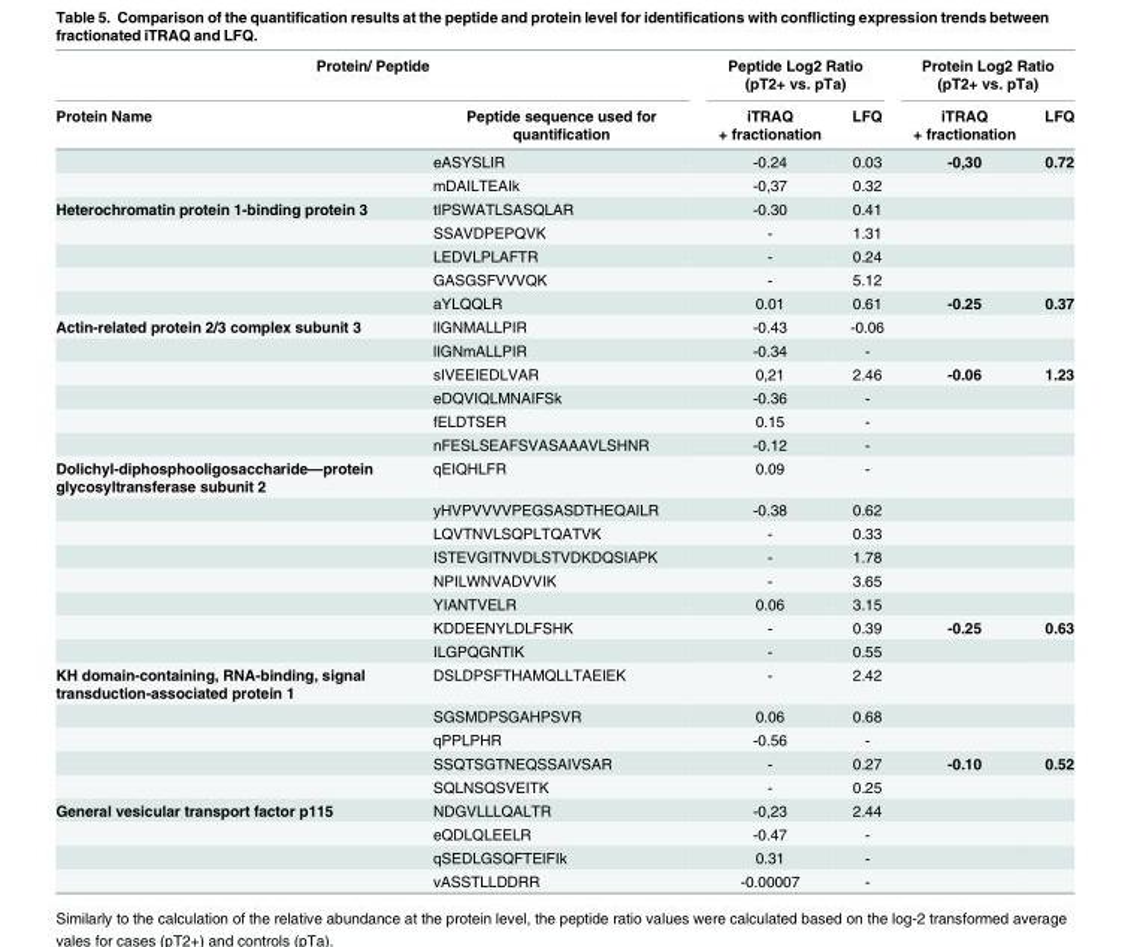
<table><thead><tr><td colspan="2">Protein/ Peptide</td><td colspan="2">Peptide Log2 Ratio (pT2+ vs. pTa)</td><td colspan="2">Protein Log2 Ratio (pT2+ vs. pTa)</td></tr><tr><td>Protein Name</td><td>Peptide sequence used for quantification</td><td>iTRAQ + fractionation</td><td>LFQ</td><td>iTRAQ + fractionation</td><td>LFQ</td></tr></thead><tbody><tr><td></td><td>eASYSLIR</td><td>-0.24</td><td>0.03</td><td>-0,30</td><td>0.72</td></tr><tr><td></td><td>mDAILTEAIk</td><td>-0,37</td><td>0.32</td><td></td><td></td></tr><tr><td rowspan="5">Heterochromatin protein 1-binding protein 3</td><td>tIPSWATLSASQLAR</td><td>-0.30</td><td>0.41</td><td></td><td></td></tr><tr><td>SSAVDPEPQVK</td><td>-</td><td>1.31</td><td></td><td></td></tr><tr><td>LEDVLPLAFTR</td><td>-</td><td>0.24</td><td></td><td></td></tr><tr><td>GASGSFVVVQK</td><td>-</td><td>5.12</td><td></td><td></td></tr><tr><td>aYLQQLR</td><td>0.01</td><td>0.61</td><td>-0.25</td><td>0.37</td></tr><tr><td rowspan="6">Actin-related protein 2/3 complex subunit 3</td><td>lIGNMALLPIR</td><td>-0.43</td><td>-0.06</td><td></td><td></td></tr><tr><td>lIGNmALLPIR</td><td>-0.34</td><td>-</td><td></td><td></td></tr><tr><td>sIVEEIEDLVAR</td><td>0,21</td><td>2.46</td><td>-0.06</td><td>1.23</td></tr><tr><td>eDQVIQLMNAIFSk</td><td>-0.36</td><td>-</td><td></td><td></td></tr><tr><td>fELDTSER</td><td>0.15</td><td>-</td><td></td><td></td></tr><tr><td>nFESLSEAFSVASAAAVLSHNR</td><td>-0.12</td><td>-</td><td></td><td></td></tr><tr><td rowspan="8">Dolichyl-diphosphooligosaccharide—protein glycosyltransferase subunit 2</td><td>qEIQHLFR</td><td>0.09</td><td>-</td><td></td><td></td></tr><tr><td>yHVPVVVVPEGSASDTHEQAILR</td><td>-0.38</td><td>0.62</td><td></td><td></td></tr><tr><td>LQVTNVLSQPLTQATVK</td><td>-</td><td>0.33</td><td></td><td></td></tr><tr><td>ISTEVGITNVDLSTVDKDQSIAPK</td><td>-</td><td>1.78</td><td></td><td></td></tr><tr><td>NPILWNVADVVIK</td><td>-</td><td>3.65</td><td></td><td></td></tr><tr><td>YIANTVELR</td><td>0.06</td><td>3.15</td><td></td><td></td></tr><tr><td>KDDEENYLDLFSHK</td><td>-</td><td>0.39</td><td>-0.25</td><td>0.63</td></tr><tr><td>ILGPQGNTIK</td><td>-</td><td>0.55</td><td></td><td></td></tr><tr><td rowspan="5">KH domain-containing, RNA-binding, signal transduction-associated protein 1</td><td>DSLDPSFTHAMQLLTAEIEK</td><td>-</td><td>2.42</td><td></td><td></td></tr><tr><td>SGSMDPSGAHPSVR</td><td>0.06</td><td>0.68</td><td></td><td></td></tr><tr><td>qPPLPHR</td><td>-0.56</td><td>-</td><td></td><td></td></tr><tr><td>SSQTSGTNEQSSAIVSAR</td><td>-</td><td>0.27</td><td>-0.10</td><td>0.52</td></tr><tr><td>SQLNSQSVEITK</td><td>-</td><td>0.25</td><td></td><td></td></tr><tr><td rowspan="4">General vesicular transport factor p115</td><td>NDGVLLLQALTR</td><td>-0,23</td><td>2.44</td><td></td><td></td></tr><tr><td>eQDLQLEELR</td><td>-0.47</td><td>-</td><td></td><td></td></tr><tr><td>qSEDLGSQFTEIFIk</td><td>0.31</td><td>-</td><td></td><td></td></tr><tr><td>vASSTLLDDRR</td><td>-0.00007</td><td>-</td><td></td><td></td></tr></tbody></table>